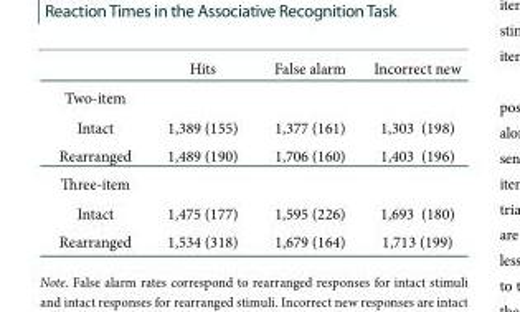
<table><thead><tr><td></td><td>Hits</td><td>False alarm</td><td>Incorrect new</td></tr></thead><tbody><tr><td colspan="4">Two-item</td></tr><tr><td>Intact</td><td>1,389 (155)</td><td>1,377 (161)</td><td>1,303 (198)</td></tr><tr><td>Rearranged</td><td>1,489 (190)</td><td>1,706 (160)</td><td>1,403 (196)</td></tr><tr><td colspan="4">Three-item</td></tr><tr><td>Intact</td><td>1,475 (177)</td><td>1,595 (226)</td><td>1,693 (180)</td></tr><tr><td>Rearranged</td><td>1,534 (318)</td><td>1,679 (164)</td><td>1,713 (199)</td></tr></tbody></table>